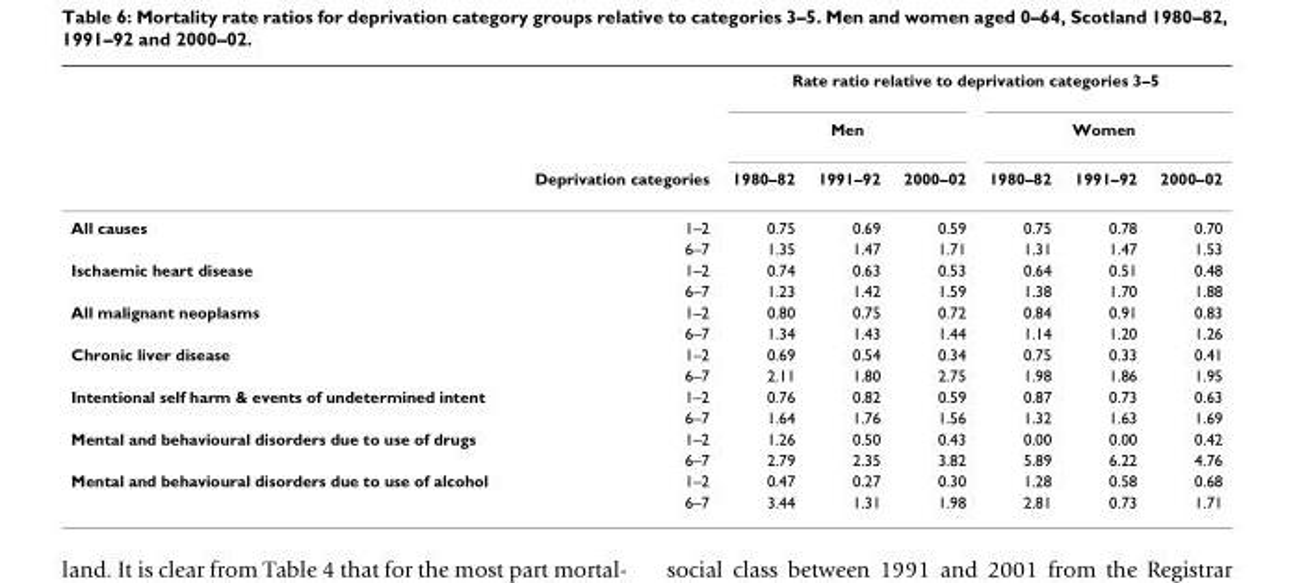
<table><thead><tr><td rowspan="3"></td><td rowspan="3">Deprivation categories</td><td colspan="6">Rate ratio relative to deprivation categories 3–5</td></tr><tr><td colspan="3">Men</td><td colspan="3">Women</td></tr><tr><td>1980–82</td><td>1991–92</td><td>2000–02</td><td>1980–82</td><td>1991–92</td><td>2000–02</td></tr></thead><tbody><tr><td rowspan="2">All causes</td><td>1–2</td><td>0.75</td><td>0.69</td><td>0.59</td><td>0.75</td><td>0.78</td><td>0.70</td></tr><tr><td>6–7</td><td>1.35</td><td>1.47</td><td>1.71</td><td>1.31</td><td>1.47</td><td>1.53</td></tr><tr><td rowspan="2">Ischaemic heart disease</td><td>1–2</td><td>0.74</td><td>0.63</td><td>0.53</td><td>0.64</td><td>0.51</td><td>0.48</td></tr><tr><td>6–7</td><td>1.23</td><td>1.42</td><td>1.59</td><td>1.38</td><td>1.70</td><td>1.88</td></tr><tr><td rowspan="2">All malignant neoplasms</td><td>1–2</td><td>0.80</td><td>0.75</td><td>0.72</td><td>0.84</td><td>0.91</td><td>0.83</td></tr><tr><td>6–7</td><td>1.34</td><td>1.43</td><td>1.44</td><td>1.14</td><td>1.20</td><td>1.26</td></tr><tr><td rowspan="2">Chronic liver disease</td><td>1–2</td><td>0.69</td><td>0.54</td><td>0.34</td><td>0.75</td><td>0.33</td><td>0.41</td></tr><tr><td>6–7</td><td>2.11</td><td>1.80</td><td>2.75</td><td>1.98</td><td>1.86</td><td>1.95</td></tr><tr><td rowspan="2">Intentional self harm &amp; events of undetermined intent</td><td>1–2</td><td>0.76</td><td>0.82</td><td>0.59</td><td>0.87</td><td>0.73</td><td>0.63</td></tr><tr><td>6–7</td><td>1.64</td><td>1.76</td><td>1.56</td><td>1.32</td><td>1.63</td><td>1.69</td></tr><tr><td rowspan="2">Mental and behavioural disorders due to use of drugs</td><td>1–2</td><td>1.26</td><td>0.50</td><td>0.43</td><td>0.00</td><td>0.00</td><td>0.42</td></tr><tr><td>6–7</td><td>2.79</td><td>2.35</td><td>3.82</td><td>5.89</td><td>6.22</td><td>4.76</td></tr><tr><td rowspan="2">Mental and behavioural disorders due to use of alcohol</td><td>1–2</td><td>0.47</td><td>0.27</td><td>0.30</td><td>1.28</td><td>0.58</td><td>0.68</td></tr><tr><td>6–7</td><td>3.44</td><td>1.31</td><td>1.98</td><td>2.81</td><td>0.73</td><td>1.71</td></tr></tbody></table>